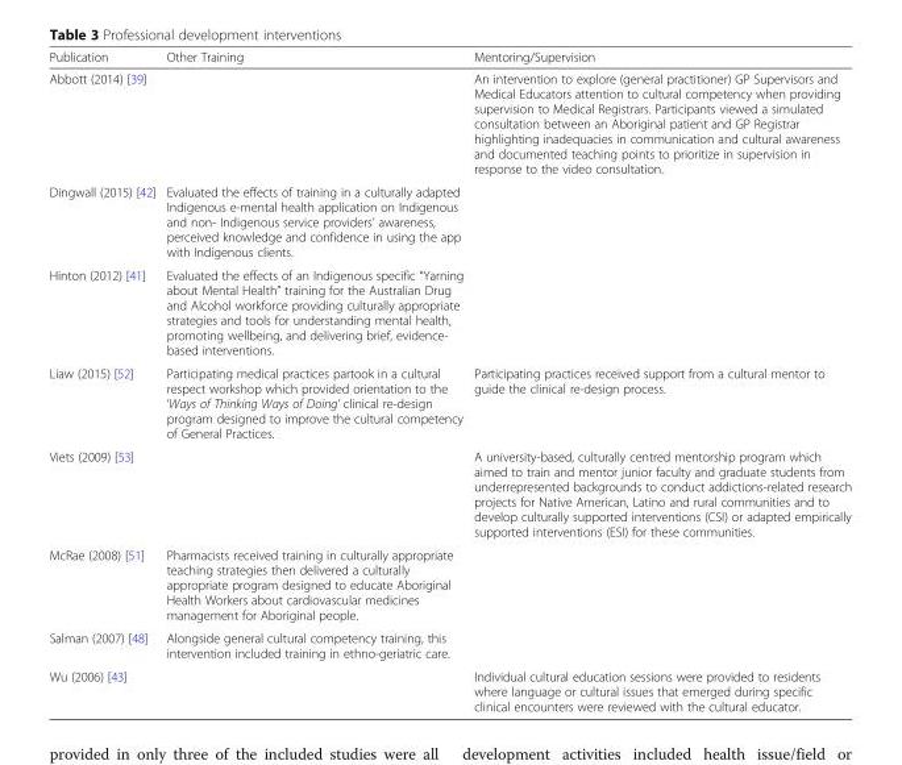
<table><thead><tr><td>Publication</td><td>Other Training</td><td>Mentoring/Supervision</td></tr></thead><tbody><tr><td>Abbott (2014) [39]</td><td></td><td>An intervention to explore (general practitioner) GP Supervisors and Medical Educators attention to cultural competency when providing supervision to Medical Registrars. Participants viewed a simulated consultation between an Aboriginal patient and GP Registrar highlighting inadequacies in communication and cultural awareness and documented teaching points to prioritize in supervision in response to the video consultation.</td></tr><tr><td>Dingwall (2015) [42]</td><td>Evaluated the effects of training in a culturally adapted Indigenous e-mental health application on Indigenous and non- Indigenous service providers’ awareness, perceived knowledge and confidence in using the app with Indigenous clients.</td><td></td></tr><tr><td>Hinton (2012) [41]</td><td>Evaluated the effects of an Indigenous specific “Yarning about Mental Health” training for the Australian Drug and Alcohol workforce providing culturally appropriate strategies and tools for understanding mental health, promoting wellbeing, and delivering brief, evidence- based interventions.</td><td></td></tr><tr><td>Liaw (2015) [52]</td><td>Participating medical practices partook in a cultural respect workshop which provided orientation to the ‘Ways of Thinking Ways of Doing’ clinical re-design program designed to improve the cultural competency of General Practices.</td><td>Participating practices received support from a cultural mentor to guide the clinical re-design process.</td></tr><tr><td>Viets (2009) [53]</td><td></td><td>A university-based, culturally centred mentorship program which aimed to train and mentor junior faculty and graduate students from underrepresented backgrounds to conduct addictions-related research projects for Native American, Latino and rural communities and to develop culturally supported interventions (CSI) or adapted empirically supported interventions (ESI) for these communities.</td></tr><tr><td>McRae (2008) [51]</td><td>Pharmacists received training in culturally appropriate teaching strategies then delivered a culturally appropriate program designed to educate Aboriginal Health Workers about cardiovascular medicines management for Aboriginal people.</td><td></td></tr><tr><td>Salman (2007) [48]</td><td>Alongside general cultural competency training, this intervention included training in ethno-geriatric care.</td><td></td></tr><tr><td>Wu (2006) [43]</td><td></td><td>Individual cultural education sessions were provided to residents where language or cultural issues that emerged during specific clinical encounters were reviewed with the cultural educator.</td></tr></tbody></table>